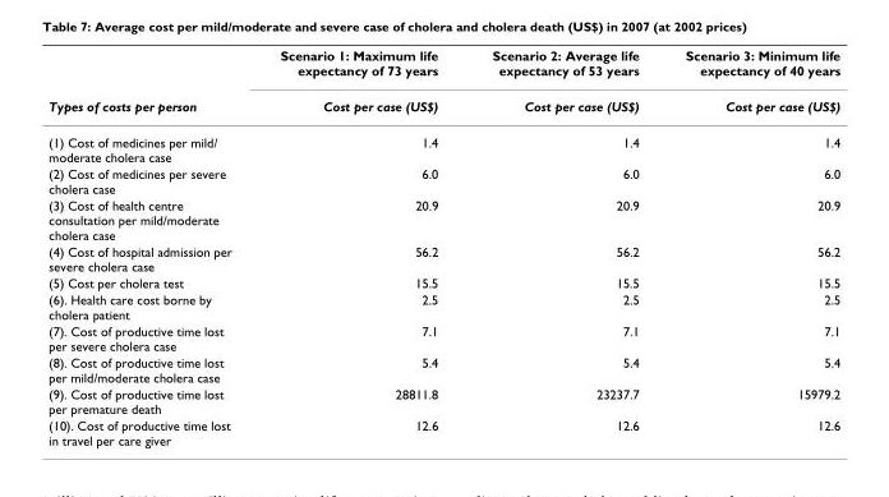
<table><thead><tr><td rowspan="2">Types of costs per person</td><td rowspan="2">Scenario 1: Maximum life expectancy of 73 years Cost per case (US$)</td><td rowspan="2">Scenario 2: Average life expectancy of 53 years Cost per case (US$)</td><td rowspan="2">Scenario 3: Minimum life expectancy of 40 years Cost per case (US$)</td></tr><tr></tr></thead><tbody><tr><td>(1) Cost of medicines per mild/ moderate cholera case</td><td>1.4</td><td>1.4</td><td>1.4</td></tr><tr><td>(2) Cost of medicines per severe cholera case</td><td>6.0</td><td>6.0</td><td>6.0</td></tr><tr><td>(3) Cost of health centre consultation per mild/moderate cholera case</td><td>20.9</td><td>20.9</td><td>20.9</td></tr><tr><td>(4) Cost of hospital admission per severe cholera case</td><td>56.2</td><td>56.2</td><td>56.2</td></tr><tr><td>(5) Cost per cholera test</td><td>15.5</td><td>15.5</td><td>15.5</td></tr><tr><td>(6). Health care cost borne by cholera patient</td><td>2.5</td><td>2.5</td><td>2.5</td></tr><tr><td>(7). Cost of productive time lost per severe cholera case</td><td>7.1</td><td>7.1</td><td>7.1</td></tr><tr><td>(8). Cost of productive time lost per mild/moderate cholera case</td><td>5.4</td><td>5.4</td><td>5.4</td></tr><tr><td>(9). Cost of productive time lost per premature death</td><td>28811.8</td><td>23237.7</td><td>15979.2</td></tr><tr><td>(10). Cost of productive time lost in travel per care giver</td><td>12.6</td><td>12.6</td><td>12.6</td></tr></tbody></table>